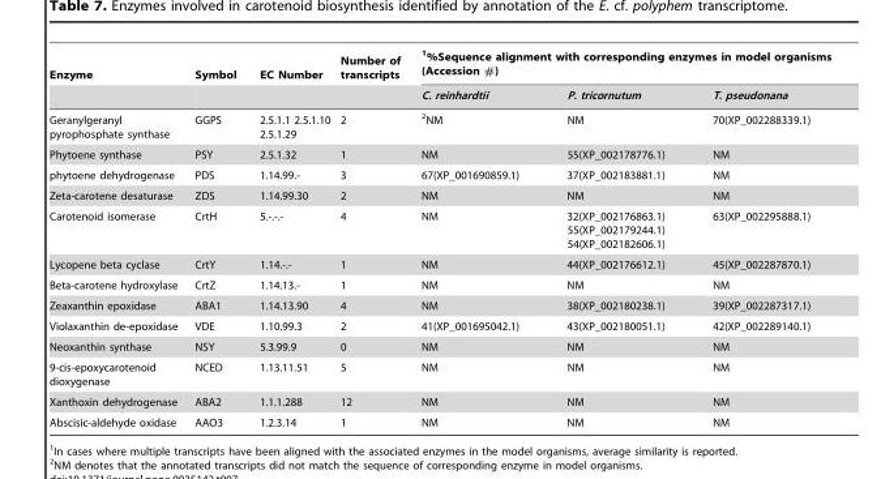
<table><thead><tr><td rowspan="2">Enzyme</td><td rowspan="2">Symbol</td><td rowspan="2">EC Number</td><td rowspan="2">Number of transcripts</td><td colspan="3">1%Sequence alignment with corresponding enzymes in model organisms (Accession #)</td></tr><tr><td>C. reinhardtii</td><td>P. tricornutum</td><td>T. pseudonana</td></tr></thead><tbody><tr><td>Geranylgeranyl pyrophosphate synthase</td><td>GGPS</td><td>2.5.1.1 2.5.1.10 2.5.1.29</td><td>2</td><td>2NM</td><td>NM</td><td>70(XP_002288339.1)</td></tr><tr><td>Phytoene synthase</td><td>PSY</td><td>2.5.1.32</td><td>1</td><td>NM</td><td>55(XP_002178776.1)</td><td>NM</td></tr><tr><td>phytoene dehydrogenase</td><td>PDS</td><td>1.14.99.-</td><td>3</td><td>67(XP_001690859.1)</td><td>37(XP_002183881.1)</td><td>NM</td></tr><tr><td>Zeta-carotene desaturase</td><td>ZDS</td><td>1.14.99.30</td><td>2</td><td>NM</td><td>NM</td><td>NM</td></tr><tr><td>Carotenoid isomerase</td><td>CrtH</td><td>5.-.-.-</td><td>4</td><td>NM</td><td>32(XP_002176863.1) 55(XP_002179244.1) 54(XP_002182606.1)</td><td>63(XP_002295888.1)</td></tr><tr><td>Lycopene beta cyclase</td><td>CrtY</td><td>1.14.-.-</td><td>1</td><td>NM</td><td>44(XP_002176612.1)</td><td>45(XP_002287870.1)</td></tr><tr><td>Beta-carotene hydroxylase</td><td>CrtZ</td><td>1.14.13.-</td><td>1</td><td>NM</td><td>NM</td><td>NM</td></tr><tr><td>Zeaxanthin epoxidase</td><td>ABA1</td><td>1.14.13.90</td><td>4</td><td>NM</td><td>38(XP_002180238.1)</td><td>39(XP_002287317.1)</td></tr><tr><td>Violaxanthin de-epoxidase</td><td>VDE</td><td>1.10.99.3</td><td>2</td><td>41(XP_001695042.1)</td><td>43(XP_002180051.1)</td><td>42(XP_002289140.1)</td></tr><tr><td>Neoxanthin synthase</td><td>NSY</td><td>5.3.99.9</td><td>0</td><td>NM</td><td>NM</td><td>NM</td></tr><tr><td>9-cis-epoxycarotenoid dioxygenase</td><td>NCED</td><td>1.13.11.51</td><td>5</td><td>NM</td><td>NM</td><td>NM</td></tr><tr><td>Xanthoxin dehydrogenase</td><td>ABA2</td><td>1.1.1.288</td><td>12</td><td>NM</td><td>NM</td><td>NM</td></tr><tr><td>Abscisic-aldehyde oxidase</td><td>AAO3</td><td>1.2.3.14</td><td>1</td><td>NM</td><td>NM</td><td>NM</td></tr></tbody></table>